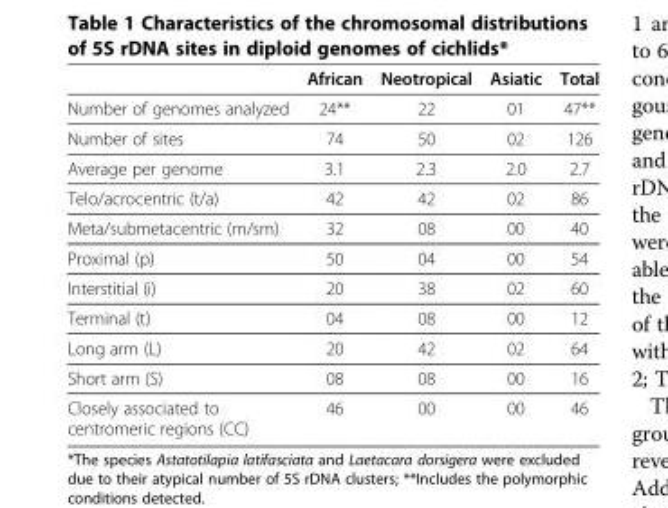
<table><thead><tr><td></td><td>African</td><td>Neotropical</td><td>Asiatic</td><td>Total</td></tr></thead><tbody><tr><td>Number of genomes analyzed</td><td>24**</td><td>22</td><td>01</td><td>47**</td></tr><tr><td>Number of sites</td><td>74</td><td>50</td><td>02</td><td>126</td></tr><tr><td>Average per genome</td><td>3.1</td><td>2.3</td><td>2.0</td><td>2.7</td></tr><tr><td>Telo/acrocentric (t/a)</td><td>42</td><td>42</td><td>02</td><td>86</td></tr><tr><td>Meta/submetacentric (m/sm)</td><td>32</td><td>08</td><td>00</td><td>40</td></tr><tr><td>Proximal (p)</td><td>50</td><td>04</td><td>00</td><td>54</td></tr><tr><td>Interstitial (i)</td><td>20</td><td>38</td><td>02</td><td>60</td></tr><tr><td>Terminal (t)</td><td>04</td><td>08</td><td>00</td><td>12</td></tr><tr><td>Long arm (L)</td><td>20</td><td>42</td><td>02</td><td>64</td></tr><tr><td>Short arm (S)</td><td>08</td><td>08</td><td>00</td><td>16</td></tr><tr><td>Closely associated to centromeric regions (CC)</td><td>46</td><td>00</td><td>00</td><td>46</td></tr></tbody></table>